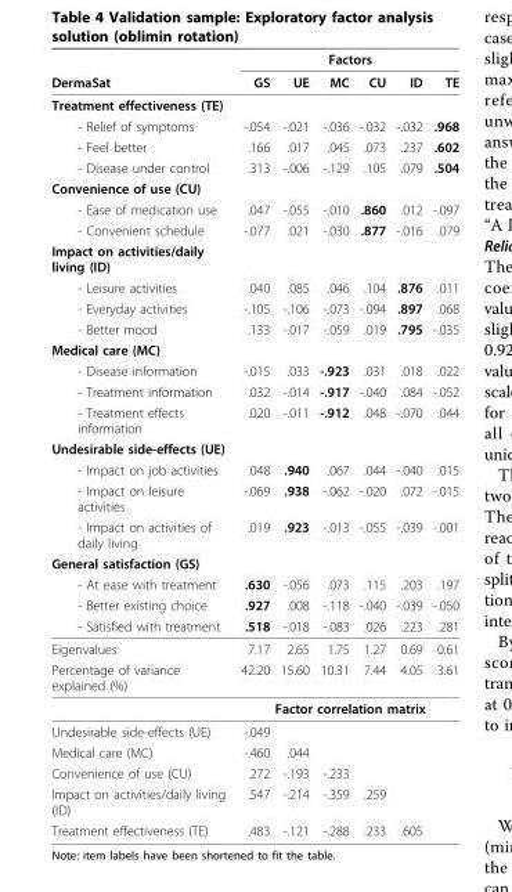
<table><thead><tr><td rowspan="2">DermaSat</td><td colspan="6">Factors</td></tr><tr><td>GS</td><td>UE</td><td>MC</td><td>CU</td><td>ID</td><td>TE</td></tr></thead><tbody><tr><td colspan="7">Treatment effectiveness (TE)</td></tr><tr><td>- Relief of symptoms</td><td>-.054</td><td>-.021</td><td>-.036</td><td>-.032</td><td>-.032</td><td>.968</td></tr><tr><td>- Feel better</td><td>.166</td><td>.017</td><td>.045</td><td>.073</td><td>.237</td><td>.602</td></tr><tr><td>- Disease under control</td><td>.313</td><td>-.006</td><td>-.129</td><td>.105</td><td>.079</td><td>.504</td></tr><tr><td colspan="7">Convenience of use (CU)</td></tr><tr><td>- Ease of medication use</td><td>.047</td><td>-.055</td><td>-.010</td><td>.860</td><td>.012</td><td>-.097</td></tr><tr><td>- Convenient schedule</td><td>-.077</td><td>.021</td><td>-.030</td><td>.877</td><td>-.016</td><td>.079</td></tr><tr><td colspan="7">Impact on activities/daily living (ID)</td></tr><tr><td>- Leisure activities</td><td>.040</td><td>.085</td><td>.046</td><td>.104</td><td>.876</td><td>.011</td></tr><tr><td>- Everyday activities</td><td>-.105</td><td>-.106</td><td>-.073</td><td>-.094</td><td>.897</td><td>.068</td></tr><tr><td>- Better mood</td><td>.133</td><td>-.017</td><td>-.059</td><td>.019</td><td>.795</td><td>-.035</td></tr><tr><td colspan="7">Medical care (MC)</td></tr><tr><td>- Disease information</td><td>-.015</td><td>.033</td><td>-.923</td><td>.031</td><td>.018</td><td>.022</td></tr><tr><td>- Treatment information</td><td>.032</td><td>-.014</td><td>-.917</td><td>-.040</td><td>.084</td><td>-.052</td></tr><tr><td>- Treatment effects information</td><td>.020</td><td>-.011</td><td>-.912</td><td>.048</td><td>-.070</td><td>.044</td></tr><tr><td colspan="7">Undesirable side-effects (UE)</td></tr><tr><td>- Impact on job activities</td><td>.048</td><td>.940</td><td>.067</td><td>.044</td><td>-.040</td><td>.015</td></tr><tr><td>- Impact on leisure activities</td><td>-.069</td><td>.938</td><td>-.062</td><td>-.020</td><td>.072</td><td>-.015</td></tr><tr><td>- Impact on activities of daily living</td><td>.019</td><td>.923</td><td>-.013</td><td>-.055</td><td>-.039</td><td>-.001</td></tr><tr><td colspan="7">General satisfaction (GS)</td></tr><tr><td>- At ease with treatment</td><td>.630</td><td>-.056</td><td>.073</td><td>.115</td><td>.203</td><td>.197</td></tr><tr><td>- Better existing choice</td><td>.927</td><td>.008</td><td>-.118</td><td>-.040</td><td>-.039</td><td>-.050</td></tr><tr><td>- Satisfied with treatment</td><td>.518</td><td>-.018</td><td>-.083</td><td>.026</td><td>.223</td><td>.281</td></tr><tr><td>Eigenvalues</td><td>7.17</td><td>2.65</td><td>1.75</td><td>1.27</td><td>0.69</td><td>0.61</td></tr><tr><td rowspan="2">Percentage of variance explained (%)</td><td>42.20</td><td>15.60</td><td>10.31</td><td>7.44</td><td>4.05</td><td>3.61</td></tr><tr><td colspan="6">Factor correlation matrix</td></tr><tr><td>Undesirable side-effects (UE)</td><td>-.049</td><td></td><td></td><td></td><td></td><td></td></tr><tr><td>Medical care (MC)</td><td>-.460</td><td>.044</td><td></td><td></td><td></td><td></td></tr><tr><td>Convenience of use (CU)</td><td>.272</td><td>-.193</td><td>-.233</td><td></td><td></td><td></td></tr><tr><td>Impact on activities/daily living (ID)</td><td>.547</td><td>-.214</td><td>-.359</td><td>.259</td><td></td><td></td></tr><tr><td>Treatment effectiveness (TE)</td><td>.483</td><td>-.121</td><td>-.288</td><td>.233</td><td>.605</td><td></td></tr></tbody></table>